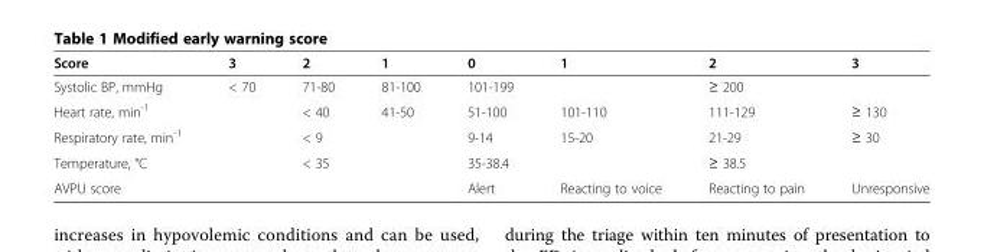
<table><thead><tr><td>Score</td><td>3</td><td>2</td><td>1</td><td>0</td><td>1</td><td>2</td><td>3</td></tr></thead><tbody><tr><td>Systolic BP, mmHg</td><td>&lt; 70</td><td>71-80</td><td>81-100</td><td>101-199</td><td></td><td>≥ 200</td><td></td></tr><tr><td>Heart rate, min<sup>-1</sup></td><td></td><td>&lt; 40</td><td>41-50</td><td>51-100</td><td>101-110</td><td>111-129</td><td>≥ 130</td></tr><tr><td>Respiratory rate, min<sup>-1</sup></td><td></td><td>&lt; 9</td><td></td><td>9-14</td><td>15-20</td><td>21-29</td><td>≥ 30</td></tr><tr><td>Temperature, °C</td><td></td><td>&lt; 35</td><td></td><td>35-38.4</td><td></td><td>≥ 38.5</td><td></td></tr><tr><td>AVPU score</td><td></td><td></td><td></td><td>Alert</td><td>Reacting to voice</td><td>Reacting to pain</td><td>Unresponsive</td></tr></tbody></table>